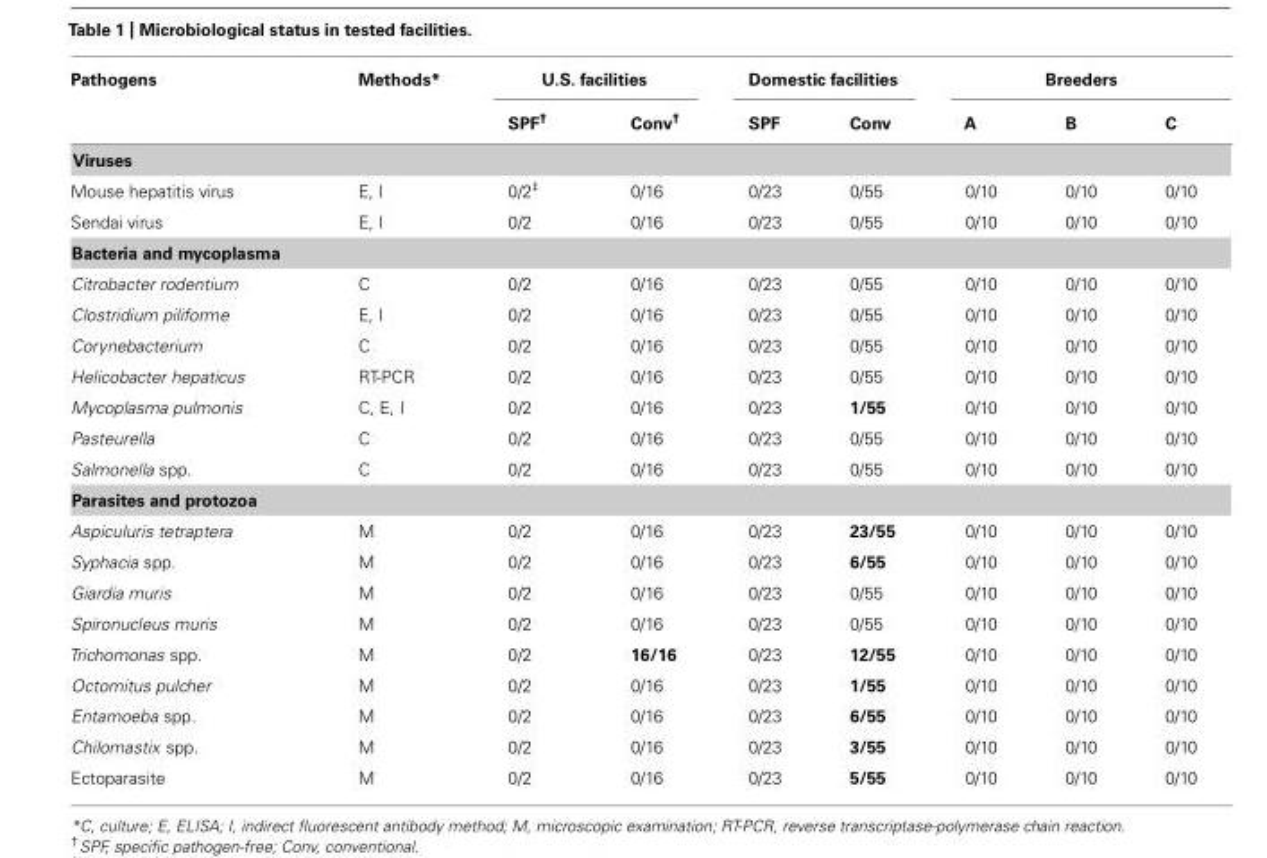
<table><thead><tr><td rowspan="2">Pathogens</td><td rowspan="2">Methods*</td><td colspan="2">U.S. facilities</td><td colspan="2">Domestic facilities</td><td colspan="3">Breeders</td></tr><tr><td>SPF†††</td><td>Conv†††</td><td>SPF</td><td>Conv</td><td>A</td><td>B</td><td>C</td></tr></thead><tbody><tr><td colspan="9">Viruses</td></tr><tr><td>Mouse hepatitis virus</td><td>E, I</td><td>0/2<sup>‡</sup></td><td>0/16</td><td>0/23</td><td>0/55</td><td>0/10</td><td>0/10</td><td>0/10</td></tr><tr><td>Sendai virus</td><td>E, I</td><td>0/2</td><td>0/16</td><td>0/23</td><td>0/55</td><td>0/10</td><td>0/10</td><td>0/10</td></tr><tr><td colspan="9">Bacteria and mycoplasma</td></tr><tr><td>Citrobacter rodentium</td><td>C</td><td>0/2</td><td>0/16</td><td>0/23</td><td>0/55</td><td>0/10</td><td>0/10</td><td>0/10</td></tr><tr><td>Clostridium piliforme</td><td>E, I</td><td>0/2</td><td>0/16</td><td>0/23</td><td>0/55</td><td>0/10</td><td>0/10</td><td>0/10</td></tr><tr><td>Corynebacterium</td><td>C</td><td>0/2</td><td>0/16</td><td>0/23</td><td>0/55</td><td>0/10</td><td>0/10</td><td>0/10</td></tr><tr><td>Helicobacter hepaticus</td><td>RT-PCR</td><td>0/2</td><td>0/16</td><td>0/23</td><td>0/55</td><td>0/10</td><td>0/10</td><td>0/10</td></tr><tr><td>Mycoplasma pulmonis</td><td>C, E, I</td><td>0/2</td><td>0/16</td><td>0/23</td><td>1/55</td><td>0/10</td><td>0/10</td><td>0/10</td></tr><tr><td>Pasteurella</td><td>C</td><td>0/2</td><td>0/16</td><td>0/23</td><td>0/55</td><td>0/10</td><td>0/10</td><td>0/10</td></tr><tr><td>Salmonella spp.</td><td>C</td><td>0/2</td><td>0/16</td><td>0/23</td><td>0/55</td><td>0/10</td><td>0/10</td><td>0/10</td></tr><tr><td colspan="9">Parasites and protozoa</td></tr><tr><td>Aspiculuris tetraptera</td><td>M</td><td>0/2</td><td>0/16</td><td>0/23</td><td>23/55</td><td>0/10</td><td>0/10</td><td>0/10</td></tr><tr><td>Syphacia spp.</td><td>M</td><td>0/2</td><td>0/16</td><td>0/23</td><td>6/55</td><td>0/10</td><td>0/10</td><td>0/10</td></tr><tr><td>Giardia muris</td><td>M</td><td>0/2</td><td>0/16</td><td>0/23</td><td>0/55</td><td>0/10</td><td>0/10</td><td>0/10</td></tr><tr><td>Spironucleus muris</td><td>M</td><td>0/2</td><td>0/16</td><td>0/23</td><td>0/55</td><td>0/10</td><td>0/10</td><td>0/10</td></tr><tr><td>Trichomonas spp.</td><td>M</td><td>0/2</td><td>16/16</td><td>0/23</td><td>12/55</td><td>0/10</td><td>0/10</td><td>0/10</td></tr><tr><td>Octomitus pulcher</td><td>M</td><td>0/2</td><td>0/16</td><td>0/23</td><td>1/55</td><td>0/10</td><td>0/10</td><td>0/10</td></tr><tr><td>Entamoeba spp.</td><td>M</td><td>0/2</td><td>0/16</td><td>0/23</td><td>6/55</td><td>0/10</td><td>0/10</td><td>0/10</td></tr><tr><td>Chilomastix spp.</td><td>M</td><td>0/2</td><td>0/16</td><td>0/23</td><td>3/55</td><td>0/10</td><td>0/10</td><td>0/10</td></tr><tr><td>Ectoparasite</td><td>M</td><td>0/2</td><td>0/16</td><td>0/23</td><td>5/55</td><td>0/10</td><td>0/10</td><td>0/10</td></tr></tbody></table>